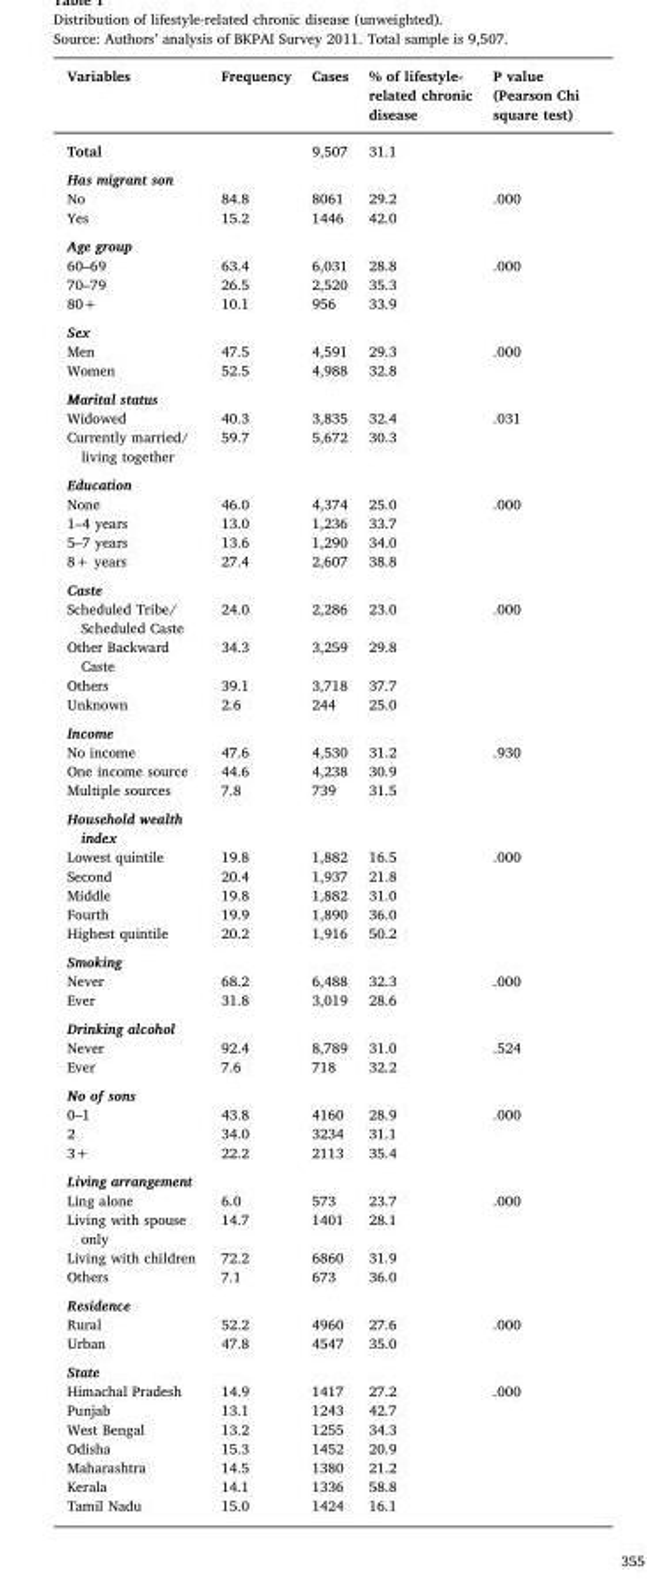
<table><thead><tr><td>Variables</td><td>Frequency</td><td>Cases</td><td>% of lifestyle- related chronic disease</td><td>P value (Pearson Chi square test)</td></tr></thead><tbody><tr><td>Total</td><td></td><td>9,507</td><td>31.1</td><td></td></tr><tr><td colspan="5">Has migrant son</td></tr><tr><td>No</td><td>84.8</td><td>8061</td><td>29.2</td><td>.000</td></tr><tr><td>Yes</td><td>15.2</td><td>1446</td><td>42.0</td><td></td></tr><tr><td colspan="5">Age group</td></tr><tr><td>60–69</td><td>63.4</td><td>6,031</td><td>28.8</td><td>.000</td></tr><tr><td>70–79</td><td>26.5</td><td>2,520</td><td>35.3</td><td></td></tr><tr><td>80+</td><td>10.1</td><td>956</td><td>33.9</td><td></td></tr><tr><td colspan="5">Sex</td></tr><tr><td>Men</td><td>47.5</td><td>4,591</td><td>29.3</td><td>.000</td></tr><tr><td>Women</td><td>52.5</td><td>4,988</td><td>32.8</td><td></td></tr><tr><td colspan="5">Marital status</td></tr><tr><td>Widowed</td><td>40.3</td><td>3,835</td><td>32.4</td><td>.031</td></tr><tr><td>Currently married/ living together</td><td>59.7</td><td>5,672</td><td>30.3</td><td></td></tr><tr><td colspan="5">Education</td></tr><tr><td>None</td><td>46.0</td><td>4,374</td><td>25.0</td><td>.000</td></tr><tr><td>1–4 years</td><td>13.0</td><td>1,236</td><td>33.7</td><td></td></tr><tr><td>5–7 years</td><td>13.6</td><td>1,290</td><td>34.0</td><td></td></tr><tr><td>8+ years</td><td>27.4</td><td>2,607</td><td>38.8</td><td></td></tr><tr><td colspan="5">Caste</td></tr><tr><td>Scheduled Tribe/ Scheduled Caste</td><td>24.0</td><td>2,286</td><td>23.0</td><td>.000</td></tr><tr><td>Other Backward Caste</td><td>34.3</td><td>3,259</td><td>29.8</td><td></td></tr><tr><td>Others</td><td>39.1</td><td>3,718</td><td>37.7</td><td></td></tr><tr><td>Unknown</td><td>2.6</td><td>244</td><td>25.0</td><td></td></tr><tr><td colspan="5">Income</td></tr><tr><td>No income</td><td>47.6</td><td>4,530</td><td>31.2</td><td>.930</td></tr><tr><td>One income source</td><td>44.6</td><td>4,238</td><td>30.9</td><td></td></tr><tr><td>Multiple sources</td><td>7.8</td><td>739</td><td>31.5</td><td></td></tr><tr><td colspan="5">Household wealth index</td></tr><tr><td>Lowest quintile</td><td>19.8</td><td>1,882</td><td>16.5</td><td>.000</td></tr><tr><td>Second</td><td>20.4</td><td>1,937</td><td>21.8</td><td></td></tr><tr><td>Middle</td><td>19.8</td><td>1,882</td><td>31.0</td><td></td></tr><tr><td>Fourth</td><td>19.9</td><td>1,890</td><td>36.0</td><td></td></tr><tr><td>Highest quintile</td><td>20.2</td><td>1,916</td><td>50.2</td><td></td></tr><tr><td colspan="5">Smoking</td></tr><tr><td>Never</td><td>68.2</td><td>6,488</td><td>32.3</td><td>.000</td></tr><tr><td>Ever</td><td>31.8</td><td>3,019</td><td>28.6</td><td></td></tr><tr><td colspan="5">Drinking alcohol</td></tr><tr><td>Never</td><td>92.4</td><td>8,789</td><td>31.0</td><td>.524</td></tr><tr><td>Ever</td><td>7.6</td><td>718</td><td>32.2</td><td></td></tr><tr><td colspan="5">No of sons</td></tr><tr><td>0–1</td><td>43.8</td><td>4160</td><td>28.9</td><td>.000</td></tr><tr><td>2</td><td>34.0</td><td>3234</td><td>31.1</td><td></td></tr><tr><td>3+</td><td>22.2</td><td>2113</td><td>35.4</td><td></td></tr><tr><td colspan="5">Living arrangement</td></tr><tr><td>Ling alone</td><td>6.0</td><td>573</td><td>23.7</td><td>.000</td></tr><tr><td>Living with spouse only</td><td>14.7</td><td>1401</td><td>28.1</td><td></td></tr><tr><td>Living with children</td><td>72.2</td><td>6860</td><td>31.9</td><td></td></tr><tr><td>Others</td><td>7.1</td><td>673</td><td>36.0</td><td></td></tr><tr><td colspan="5">Residence</td></tr><tr><td>Rural</td><td>52.2</td><td>4960</td><td>27.6</td><td>.000</td></tr><tr><td>Urban</td><td>47.8</td><td>4547</td><td>35.0</td><td></td></tr><tr><td colspan="5">State</td></tr><tr><td>Himachal Pradesh</td><td>14.9</td><td>1417</td><td>27.2</td><td>.000</td></tr><tr><td>Punjab</td><td>13.1</td><td>1243</td><td>42.7</td><td></td></tr><tr><td>West Bengal</td><td>13.2</td><td>1255</td><td>34.3</td><td></td></tr><tr><td>Odisha</td><td>15.3</td><td>1452</td><td>20.9</td><td></td></tr><tr><td>Maharashtra</td><td>14.5</td><td>1380</td><td>21.2</td><td></td></tr><tr><td>Kerala</td><td>14.1</td><td>1336</td><td>58.8</td><td></td></tr><tr><td>Tamil Nadu</td><td>15.0</td><td>1424</td><td>16.1</td><td></td></tr></tbody></table>